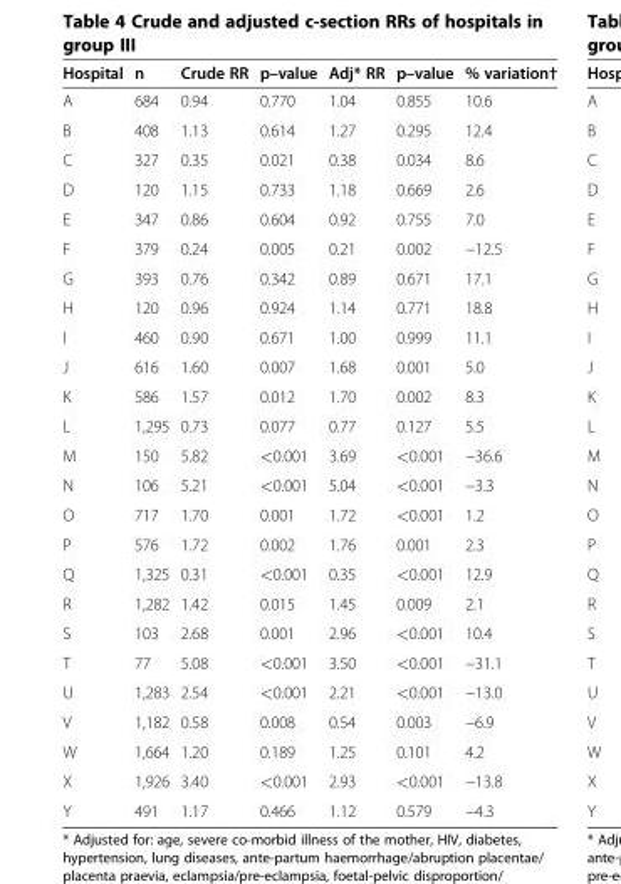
<table><thead><tr><td>Hospital</td><td>n</td><td>Crude RR</td><td>p–value</td><td>Adj* RR</td><td>p–value</td><td>% variation†</td></tr></thead><tbody><tr><td>A</td><td>684</td><td>0.94</td><td>0.770</td><td>1.04</td><td>0.855</td><td>10.6</td></tr><tr><td>B</td><td>408</td><td>1.13</td><td>0.614</td><td>1.27</td><td>0.295</td><td>12.4</td></tr><tr><td>C</td><td>327</td><td>0.35</td><td>0.021</td><td>0.38</td><td>0.034</td><td>8.6</td></tr><tr><td>D</td><td>120</td><td>1.15</td><td>0.733</td><td>1.18</td><td>0.669</td><td>2.6</td></tr><tr><td>E</td><td>347</td><td>0.86</td><td>0.604</td><td>0.92</td><td>0.755</td><td>7.0</td></tr><tr><td>F</td><td>379</td><td>0.24</td><td>0.005</td><td>0.21</td><td>0.002</td><td>−12.5</td></tr><tr><td>G</td><td>393</td><td>0.76</td><td>0.342</td><td>0.89</td><td>0.671</td><td>17.1</td></tr><tr><td>H</td><td>120</td><td>0.96</td><td>0.924</td><td>1.14</td><td>0.771</td><td>18.8</td></tr><tr><td>I</td><td>460</td><td>0.90</td><td>0.671</td><td>1.00</td><td>0.999</td><td>11.1</td></tr><tr><td>J</td><td>616</td><td>1.60</td><td>0.007</td><td>1.68</td><td>0.001</td><td>5.0</td></tr><tr><td>K</td><td>586</td><td>1.57</td><td>0.012</td><td>1.70</td><td>0.002</td><td>8.3</td></tr><tr><td>L</td><td>1,295</td><td>0.73</td><td>0.077</td><td>0.77</td><td>0.127</td><td>5.5</td></tr><tr><td>M</td><td>150</td><td>5.82</td><td>&lt;0.001</td><td>3.69</td><td>&lt;0.001</td><td>−36.6</td></tr><tr><td>N</td><td>106</td><td>5.21</td><td>&lt;0.001</td><td>5.04</td><td>&lt;0.001</td><td>−3.3</td></tr><tr><td>O</td><td>717</td><td>1.70</td><td>0.001</td><td>1.72</td><td>&lt;0.001</td><td>1.2</td></tr><tr><td>P</td><td>576</td><td>1.72</td><td>0.002</td><td>1.76</td><td>0.001</td><td>2.3</td></tr><tr><td>Q</td><td>1,325</td><td>0.31</td><td>&lt;0.001</td><td>0.35</td><td>&lt;0.001</td><td>12.9</td></tr><tr><td>R</td><td>1,282</td><td>1.42</td><td>0.015</td><td>1.45</td><td>0.009</td><td>2.1</td></tr><tr><td>S</td><td>103</td><td>2.68</td><td>0.001</td><td>2.96</td><td>&lt;0.001</td><td>10.4</td></tr><tr><td>T</td><td>77</td><td>5.08</td><td>&lt;0.001</td><td>3.50</td><td>&lt;0.001</td><td>−31.1</td></tr><tr><td>U</td><td>1,283</td><td>2.54</td><td>&lt;0.001</td><td>2.21</td><td>&lt;0.001</td><td>−13.0</td></tr><tr><td>V</td><td>1,182</td><td>0.58</td><td>0.008</td><td>0.54</td><td>0.003</td><td>−6.9</td></tr><tr><td>W</td><td>1,664</td><td>1.20</td><td>0.189</td><td>1.25</td><td>0.101</td><td>4.2</td></tr><tr><td>X</td><td>1,926</td><td>3.40</td><td>&lt;0.001</td><td>2.93</td><td>&lt;0.001</td><td>−13.8</td></tr><tr><td>Y</td><td>491</td><td>1.17</td><td>0.466</td><td>1.12</td><td>0.579</td><td>−4.3</td></tr></tbody></table>